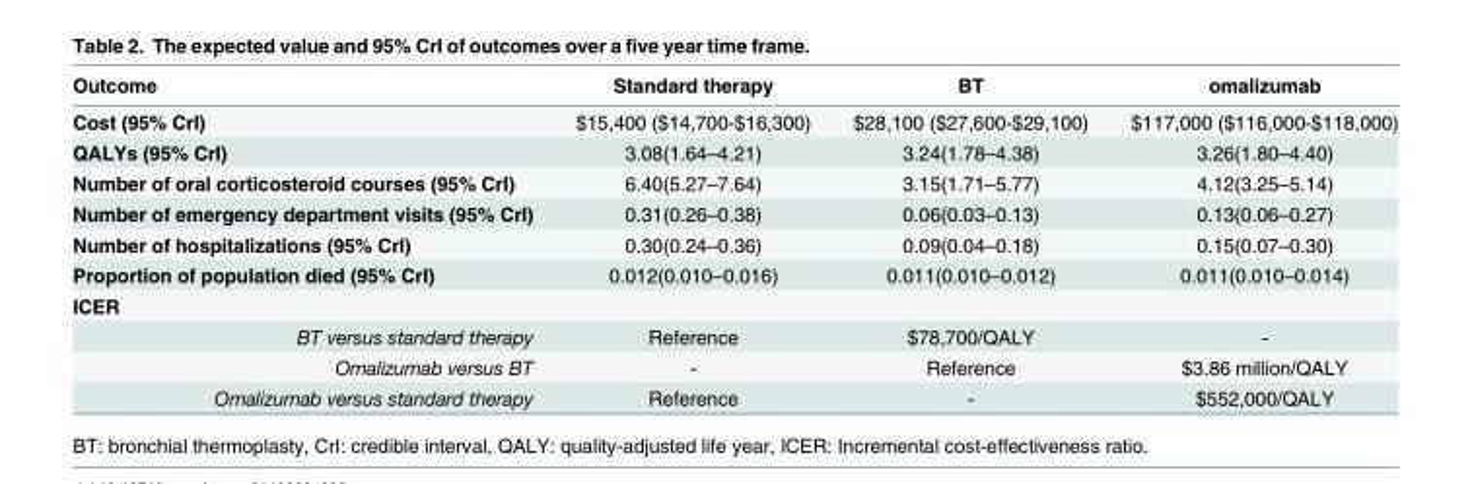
<table><thead><tr><td>Outcome</td><td>Standard therapy</td><td>BT</td><td>omalizumab</td></tr></thead><tbody><tr><td>Cost (95% CrI)</td><td>$15,400 ($14,700-$16,300)</td><td>$28,100 ($27,600-$29,100)</td><td>$117,000 ($116,000-$118,000)</td></tr><tr><td>QALYs (95% CrI)</td><td>3.08(1.64–4.21)</td><td>3.24(1.78–4.38)</td><td>3.26(1.80–4.40)</td></tr><tr><td>Number of oral corticosteroid courses (95% CrI)</td><td>6.40(5.27–7.64)</td><td>3.15(1.71–5.77)</td><td>4.12(3.25–5.14)</td></tr><tr><td>Number of emergency department visits (95% CrI)</td><td>0.31(0.26–0.38)</td><td>0.06(0.03–0.13)</td><td>0.13(0.06–0.27)</td></tr><tr><td>Number of hospitalizations (95% CrI)</td><td>0.30(0.24–0.36)</td><td>0.09(0.04–0.18)</td><td>0.15(0.07–0.30)</td></tr><tr><td>Proportion of population died (95% CrI)</td><td>0.012(0.010–0.016)</td><td>0.011(0.010–0.012)</td><td>0.011(0.010–0.014)</td></tr><tr><td colspan="4">ICER</td></tr><tr><td>BT versus standard therapy</td><td>Reference</td><td>$78,700/QALY</td><td>-</td></tr><tr><td>Omalizumab versus BT</td><td>-</td><td>Reference</td><td>$3.86 million/QALY</td></tr><tr><td>Omalizumab versus standard therapy</td><td>Reference</td><td>-</td><td>$552,000/QALY</td></tr></tbody></table>